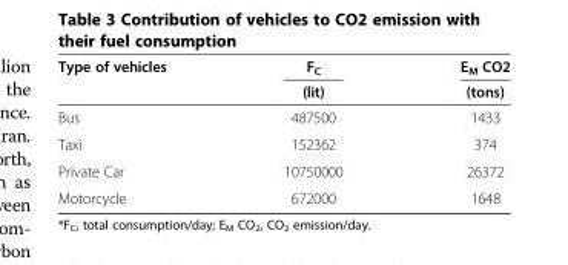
<table><thead><tr><td rowspan="2">Type of vehicles</td><td rowspan="2">F<sub>C</sub> (lit)</td><td rowspan="2">E<sub>M</sub> CO2 (tons)</td></tr><tr></tr></thead><tbody><tr><td>Bus</td><td>487500</td><td>1433</td></tr><tr><td>Taxi</td><td>152362</td><td>374</td></tr><tr><td>Private Car</td><td>10750000</td><td>26372</td></tr><tr><td>Motorcycle</td><td>672000</td><td>1648</td></tr></tbody></table>